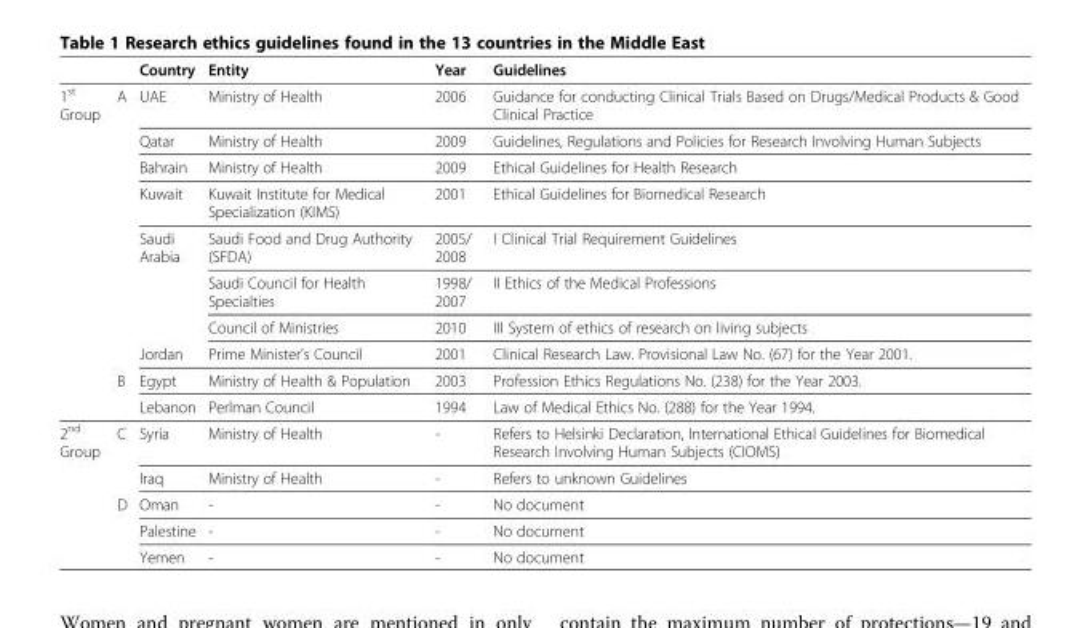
<table><thead><tr><td></td><td></td><td>Country</td><td>Entity</td><td>Year</td><td>Guidelines</td></tr></thead><tbody><tr><td rowspan="10">1<sup>st</sup> Group</td><td>A</td><td>UAE</td><td>Ministry of Health</td><td>2006</td><td>Guidance for conducting Clinical Trials Based on Drugs/Medical Products &amp; Good Clinical Practice</td></tr><tr><td></td><td>Qatar</td><td>Ministry of Health</td><td>2009</td><td>Guidelines, Regulations and Policies for Research Involving Human Subjects</td></tr><tr><td></td><td>Bahrain</td><td>Ministry of Health</td><td>2009</td><td>Ethical Guidelines for Health Research</td></tr><tr><td></td><td>Kuwait</td><td>Kuwait Institute for Medical Specialization (KIMS)</td><td>2001</td><td>Ethical Guidelines for Biomedical Research</td></tr><tr><td></td><td>Saudi Arabia</td><td>Saudi Food and Drug Authority (SFDA)</td><td>2005/ 2008</td><td>I Clinical Trial Requirement Guidelines</td></tr><tr><td></td><td></td><td>Saudi Council for Health Specialties</td><td>1998/ 2007</td><td>II Ethics of the Medical Professions</td></tr><tr><td></td><td></td><td>Council of Ministries</td><td>2010</td><td>III System of ethics of research on living subjects</td></tr><tr><td></td><td>Jordan</td><td>Prime Minister’s Council</td><td>2001</td><td>Clinical Research Law. Provisional Law No. (67) for the Year 2001.</td></tr><tr><td>B</td><td>Egypt</td><td>Ministry of Health &amp; Population</td><td>2003</td><td>Profession Ethics Regulations No. (238) for the Year 2003.</td></tr><tr><td></td><td>Lebanon</td><td>Perlman Council</td><td>1994</td><td>Law of Medical Ethics No. (288) for the Year 1994.</td></tr><tr><td rowspan="5">2<sup>nd</sup> Group</td><td>C</td><td>Syria</td><td>Ministry of Health</td><td>-</td><td>Refers to Helsinki Declaration, International Ethical Guidelines for Biomedical Research Involving Human Subjects (CIOMS)</td></tr><tr><td></td><td>Iraq</td><td>Ministry of Health</td><td>-</td><td>Refers to unknown Guidelines</td></tr><tr><td>D</td><td>Oman</td><td>-</td><td>-</td><td>No document</td></tr><tr><td></td><td>Palestine</td><td>-</td><td>-</td><td>No document</td></tr><tr><td></td><td>Yemen</td><td>-</td><td>-</td><td>No document</td></tr></tbody></table>